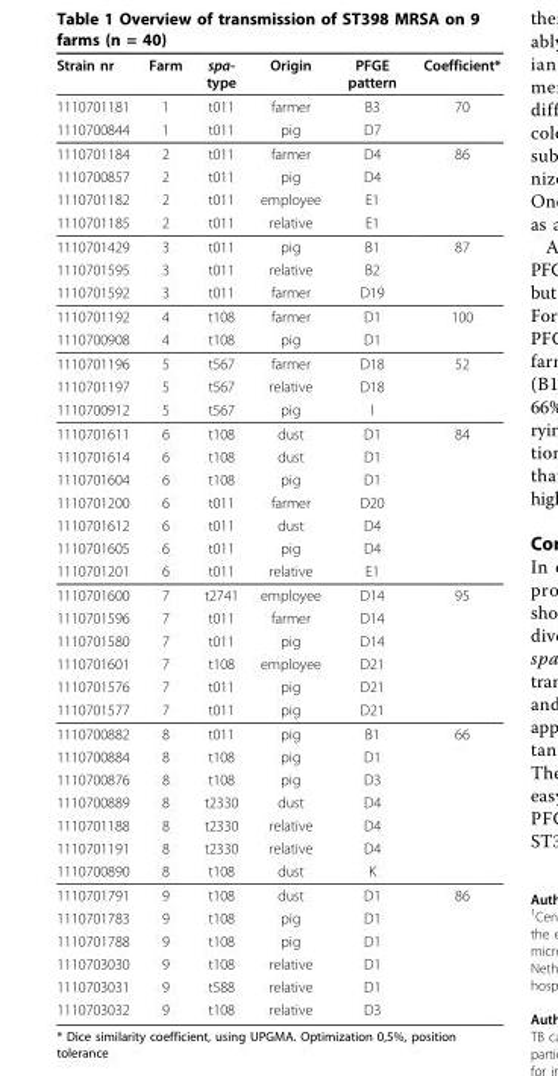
<table><thead><tr><td>Strain nr</td><td>Farm</td><td>spa- type</td><td>Origin</td><td>PFGE pattern</td><td>Coefficient*</td></tr></thead><tbody><tr><td>1110701181</td><td>1</td><td>t011</td><td>farmer</td><td>B3</td><td>70</td></tr><tr><td>1110700844</td><td>1</td><td>t011</td><td>pig</td><td>D7</td><td></td></tr><tr><td>1110701184</td><td>2</td><td>t011</td><td>farmer</td><td>D4</td><td>86</td></tr><tr><td>1110700857</td><td>2</td><td>t011</td><td>pig</td><td>D4</td><td></td></tr><tr><td>1110701182</td><td>2</td><td>t011</td><td>employee</td><td>E1</td><td></td></tr><tr><td>1110701185</td><td>2</td><td>t011</td><td>relative</td><td>E1</td><td></td></tr><tr><td>1110701429</td><td>3</td><td>t011</td><td>pig</td><td>B1</td><td>87</td></tr><tr><td>1110701595</td><td>3</td><td>t011</td><td>relative</td><td>B2</td><td></td></tr><tr><td>1110701592</td><td>3</td><td>t011</td><td>farmer</td><td>D19</td><td></td></tr><tr><td>1110701192</td><td>4</td><td>t108</td><td>farmer</td><td>D1</td><td>100</td></tr><tr><td>1110700908</td><td>4</td><td>t108</td><td>pig</td><td>D1</td><td></td></tr><tr><td>1110701196</td><td>5</td><td>t567</td><td>farmer</td><td>D18</td><td>52</td></tr><tr><td>1110701197</td><td>5</td><td>t567</td><td>relative</td><td>D18</td><td></td></tr><tr><td>1110700912</td><td>5</td><td>t567</td><td>pig</td><td>I</td><td></td></tr><tr><td>1110701611</td><td>6</td><td>t108</td><td>dust</td><td>D1</td><td>84</td></tr><tr><td>1110701614</td><td>6</td><td>t108</td><td>dust</td><td>D1</td><td></td></tr><tr><td>1110701604</td><td>6</td><td>t108</td><td>pig</td><td>D1</td><td></td></tr><tr><td>1110701200</td><td>6</td><td>t011</td><td>farmer</td><td>D20</td><td></td></tr><tr><td>1110701612</td><td>6</td><td>t011</td><td>dust</td><td>D4</td><td></td></tr><tr><td>1110701605</td><td>6</td><td>t011</td><td>pig</td><td>D4</td><td></td></tr><tr><td>1110701201</td><td>6</td><td>t011</td><td>relative</td><td>E1</td><td></td></tr><tr><td>1110701600</td><td>7</td><td>t2741</td><td>employee</td><td>D14</td><td>95</td></tr><tr><td>1110701596</td><td>7</td><td>t011</td><td>farmer</td><td>D14</td><td></td></tr><tr><td>1110701580</td><td>7</td><td>t011</td><td>pig</td><td>D14</td><td></td></tr><tr><td>1110701601</td><td>7</td><td>t108</td><td>employee</td><td>D21</td><td></td></tr><tr><td>1110701576</td><td>7</td><td>t011</td><td>pig</td><td>D21</td><td></td></tr><tr><td>1110701577</td><td>7</td><td>t011</td><td>pig</td><td>D21</td><td></td></tr><tr><td>1110700882</td><td>8</td><td>t011</td><td>pig</td><td>B1</td><td>66</td></tr><tr><td>1110700884</td><td>8</td><td>t108</td><td>pig</td><td>D1</td><td></td></tr><tr><td>1110700876</td><td>8</td><td>t108</td><td>pig</td><td>D3</td><td></td></tr><tr><td>1110700889</td><td>8</td><td>t2330</td><td>dust</td><td>D4</td><td></td></tr><tr><td>1110701188</td><td>8</td><td>t2330</td><td>relative</td><td>D4</td><td></td></tr><tr><td>1110701191</td><td>8</td><td>t2330</td><td>relative</td><td>D4</td><td></td></tr><tr><td>1110700890</td><td>8</td><td>t108</td><td>dust</td><td>K</td><td></td></tr><tr><td>1110701791</td><td>9</td><td>t108</td><td>dust</td><td>D1</td><td>86</td></tr><tr><td>1110701783</td><td>9</td><td>t108</td><td>pig</td><td>D1</td><td></td></tr><tr><td>1110701788</td><td>9</td><td>t108</td><td>pig</td><td>D1</td><td></td></tr><tr><td>1110703030</td><td>9</td><td>t108</td><td>relative</td><td>D1</td><td></td></tr><tr><td>1110703031</td><td>9</td><td>t588</td><td>relative</td><td>D1</td><td></td></tr><tr><td>1110703032</td><td>9</td><td>t108</td><td>relative</td><td>D3</td><td></td></tr></tbody></table>